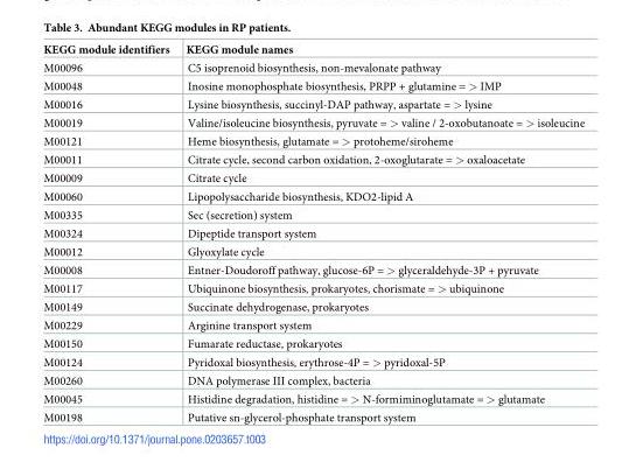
<table><thead><tr><td>KEGG module identifiers</td><td>KEGG module names</td></tr></thead><tbody><tr><td>M00096</td><td>C5 isoprenoid biosynthesis, non-mevalonate pathway</td></tr><tr><td>M00048</td><td>Inosine monophosphate biosynthesis, PRPP + glutamine = &gt; IMP</td></tr><tr><td>M00016</td><td>Lysine biosynthesis, succinyl-DAP pathway, aspartate = &gt; lysine</td></tr><tr><td>M00019</td><td>Valine/isoleucine biosynthesis, pyruvate = &gt; valine / 2-oxobutanoate = &gt; isoleucine</td></tr><tr><td>M00121</td><td>Heme biosynthesis, glutamate = &gt; protoheme/siroheme</td></tr><tr><td>M00011</td><td>Citrate cycle, second carbon oxidation, 2-oxoglutarate = &gt; oxaloacetate</td></tr><tr><td>M00009</td><td>Citrate cycle</td></tr><tr><td>M00060</td><td>Lipopolysaccharide biosynthesis, KDO2-lipid A</td></tr><tr><td>M00335</td><td>Sec (secretion) system</td></tr><tr><td>M00324</td><td>Dipeptide transport system</td></tr><tr><td>M00012</td><td>Glyoxylate cycle</td></tr><tr><td>M00008</td><td>Entner-Doudoroff pathway, glucose-6P = &gt; glyceraldehyde-3P + pyruvate</td></tr><tr><td>M00117</td><td>Ubiquinone biosynthesis, prokaryotes, chorismate = &gt; ubiquinone</td></tr><tr><td>M00149</td><td>Succinate dehydrogenase, prokaryotes</td></tr><tr><td>M00229</td><td>Arginine transport system</td></tr><tr><td>M00150</td><td>Fumarate reductase, prokaryotes</td></tr><tr><td>M00124</td><td>Pyridoxal biosynthesis, erythrose-4P = &gt; pyridoxal-5P</td></tr><tr><td>M00260</td><td>DNA polymerase III complex, bacteria</td></tr><tr><td>M00045</td><td>Histidine degradation, histidine = &gt; N-formiminoglutamate = &gt; glutamate</td></tr><tr><td>M00198</td><td>Putative sn-glycerol-phosphate transport system</td></tr></tbody></table>